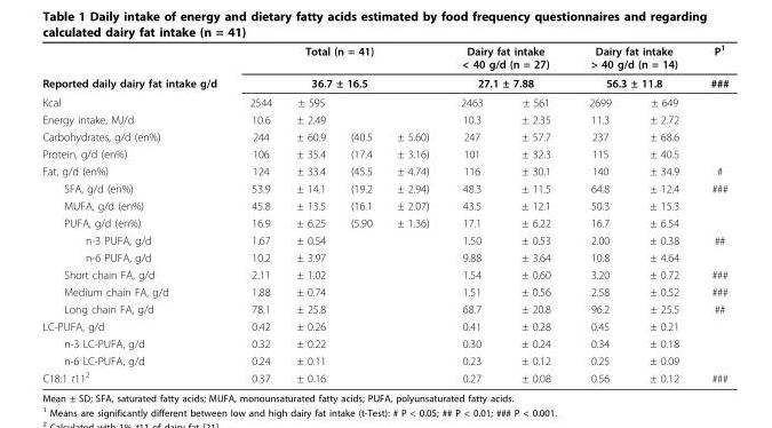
<table><thead><tr><td rowspan="3">Reported daily dairy fat intake g/d Kcal</td><td rowspan="2" colspan="4">Total (n = 41) 36.7 ± 16.5</td><td rowspan="2" colspan="2">Dairy fat intake &lt; 40 g/d (n = 27) 27.1 ± 7.88</td><td rowspan="2" colspan="2">Dairy fat intake &gt; 40 g/d (n = 14) 56.3 ± 11.8</td><td rowspan="3">P1 ###</td></tr><tr></tr><tr><td>2544</td><td>± 595</td><td></td><td></td><td>2463</td><td>± 561</td><td>2699</td><td>± 649</td></tr></thead><tbody><tr><td>Energy intake, MJ/d</td><td>10.6</td><td>± 2.49</td><td></td><td></td><td>10.3</td><td>± 2.35</td><td>11.3</td><td>± 2.72</td><td></td></tr><tr><td>Carbohydrates, g/d (en%)</td><td>244</td><td>± 60.9</td><td>(40.5</td><td>± 5.60)</td><td>247</td><td>± 57.7</td><td>237</td><td>± 68.6</td><td></td></tr><tr><td>Protein, g/d (en%)</td><td>106</td><td>± 35.4</td><td>(17.4</td><td>± 3.16)</td><td>101</td><td>± 32.3</td><td>115</td><td>± 40.5</td><td></td></tr><tr><td>Fat, g/d (en%)</td><td>124</td><td>± 33.4</td><td>(45.5</td><td>± 4.74)</td><td>116</td><td>± 30.1</td><td>140</td><td>± 34.9</td><td>#</td></tr><tr><td>SFA, g/d (en%)</td><td>53.9</td><td>± 14.1</td><td>(19.2</td><td>± 2.94)</td><td>48.3</td><td>± 11.5</td><td>64.8</td><td>± 12.4</td><td>###</td></tr><tr><td>MUFA, g/d (en%)</td><td>45.8</td><td>± 13.5</td><td>(16.1</td><td>± 2.07)</td><td>43.5</td><td>± 12.1</td><td>50.3</td><td>± 15.3</td><td></td></tr><tr><td>PUFA, g/d (en%)</td><td>16.9</td><td>± 6.25</td><td>(5.90</td><td>± 1.36)</td><td>17.1</td><td>± 6.22</td><td>16.7</td><td>± 6.54</td><td></td></tr><tr><td>n-3 PUFA, g/d</td><td>1.67</td><td>± 0.54</td><td></td><td></td><td>1.50</td><td>± 0.53</td><td>2.00</td><td>± 0.38</td><td>##</td></tr><tr><td>n-6 PUFA, g/d</td><td>10.2</td><td>± 3.97</td><td></td><td></td><td>9.88</td><td>± 3.64</td><td>10.8</td><td>± 4.64</td><td></td></tr><tr><td>Short chain FA, g/d</td><td>2.11</td><td>± 1.02</td><td></td><td></td><td>1.54</td><td>± 0.60</td><td>3.20</td><td>± 0.72</td><td>###</td></tr><tr><td>Medium chain FA, g/d</td><td>1.88</td><td>± 0.74</td><td></td><td></td><td>1.51</td><td>± 0.56</td><td>2.58</td><td>± 0.52</td><td>###</td></tr><tr><td>Long chain FA, g/d</td><td>78.1</td><td>± 25.8</td><td></td><td></td><td>68.7</td><td>± 20.8</td><td>96.2</td><td>± 25.5</td><td>##</td></tr><tr><td>LC-PUFA, g/d</td><td>0.42</td><td>± 0.26</td><td></td><td></td><td>0.41</td><td>± 0.28</td><td>0.45</td><td>± 0.21</td><td></td></tr><tr><td>n-3 LC-PUFA, g/d</td><td>0.32</td><td>± 0.22</td><td></td><td></td><td>0.30</td><td>± 0.24</td><td>0.34</td><td>± 0.18</td><td></td></tr><tr><td>n-6 LC-PUFA, g/d</td><td>0.24</td><td>± 0.11</td><td></td><td></td><td>0.23</td><td>± 0.12</td><td>0.25</td><td>± 0.09</td><td></td></tr><tr><td>C18:1 t11<sup>2</sup></td><td>0.37</td><td>± 0.16</td><td></td><td></td><td>0.27</td><td>± 0.08</td><td>0.56</td><td>± 0.12</td><td>###</td></tr></tbody></table>